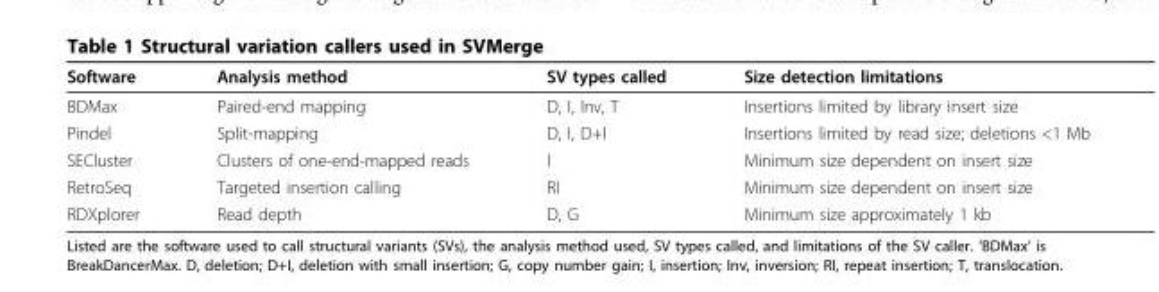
<table><thead><tr><td>Software</td><td>Analysis method</td><td>SV types called</td><td>Size detection limitations</td></tr></thead><tbody><tr><td>BDMax</td><td>Paired-end mapping</td><td>D, I, Inv, T</td><td>Insertions limited by library insert size</td></tr><tr><td>Pindel</td><td>Split-mapping</td><td>D, I, D+I</td><td>Insertions limited by read size; deletions &lt;1 Mb</td></tr><tr><td>SECluster</td><td>Clusters of one-end-mapped reads</td><td>I</td><td>Minimum size dependent on insert size</td></tr><tr><td>RetroSeq</td><td>Targeted insertion calling</td><td>RI</td><td>Minimum size dependent on insert size</td></tr><tr><td>RDXplorer</td><td>Read depth</td><td>D, G</td><td>Minimum size approximately 1 kb</td></tr></tbody></table>